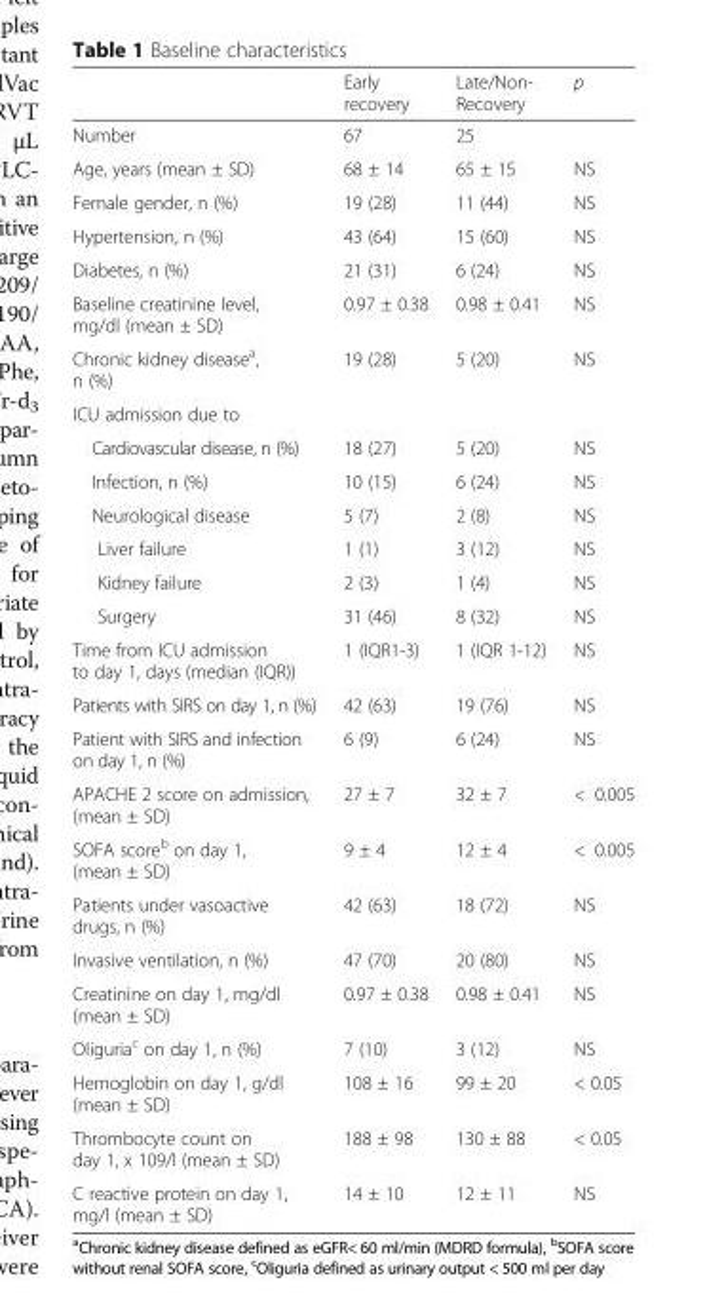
<table><thead><tr><td></td><td>Early recovery</td><td>Late/Non- Recovery</td><td>p</td></tr></thead><tbody><tr><td>Number</td><td>67</td><td>25</td><td></td></tr><tr><td>Age, years (mean ± SD)</td><td>68 ± 14</td><td>65 ± 15</td><td>NS</td></tr><tr><td>Female gender, n (%)</td><td>19 (28)</td><td>11 (44)</td><td>NS</td></tr><tr><td>Hypertension, n (%)</td><td>43 (64)</td><td>15 (60)</td><td>NS</td></tr><tr><td>Diabetes, n (%)</td><td>21 (31)</td><td>6 (24)</td><td>NS</td></tr><tr><td>Baseline creatinine level, mg/dl (mean ± SD)</td><td>0.97 ± 0.38</td><td>0.98 ± 0.41</td><td>NS</td></tr><tr><td>Chronic kidney disease<sup>a</sup>, n (%)</td><td>19 (28)</td><td>5 (20)</td><td>NS</td></tr><tr><td colspan="4">ICU admission due to</td></tr><tr><td>Cardiovascular disease, n (%)</td><td>18 (27)</td><td>5 (20)</td><td>NS</td></tr><tr><td>Infection, n (%)</td><td>10 (15)</td><td>6 (24)</td><td>NS</td></tr><tr><td>Neurological disease</td><td>5 (7)</td><td>2 (8)</td><td>NS</td></tr><tr><td>Liver failure</td><td>1 (1)</td><td>3 (12)</td><td>NS</td></tr><tr><td>Kidney failure</td><td>2 (3)</td><td>1 (4)</td><td>NS</td></tr><tr><td>Surgery</td><td>31 (46)</td><td>8 (32)</td><td>NS</td></tr><tr><td>Time from ICU admission to day 1, days (median (IQR))</td><td>1 (IQR1-3)</td><td>1 (IQR 1-12)</td><td>NS</td></tr><tr><td>Patients with SIRS on day 1, n (%)</td><td>42 (63)</td><td>19 (76)</td><td>NS</td></tr><tr><td>Patient with SIRS and infection on day 1, n (%)</td><td>6 (9)</td><td>6 (24)</td><td>NS</td></tr><tr><td>APACHE 2 score on admission, (mean ± SD)</td><td>27 ± 7</td><td>32 ± 7</td><td>&lt; 0.005</td></tr><tr><td>SOFA score<sup>b</sup> on day 1, (mean ± SD)</td><td>9 ± 4</td><td>12 ± 4</td><td>&lt; 0.005</td></tr><tr><td>Patients under vasoactive drugs, n (%)</td><td>42 (63)</td><td>18 (72)</td><td>NS</td></tr><tr><td>Invasive ventilation, n (%)</td><td>47 (70)</td><td>20 (80)</td><td>NS</td></tr><tr><td>Creatinine on day 1, mg/dl (mean ± SD)</td><td>0.97 ± 0.38</td><td>0.98 ± 0.41</td><td>NS</td></tr><tr><td>Oliguria<sup>c</sup> on day 1, n (%)</td><td>7 (10)</td><td>3 (12)</td><td>NS</td></tr><tr><td>Hemoglobin on day 1, g/dl (mean ± SD)</td><td>108 ± 16</td><td>99 ± 20</td><td>&lt; 0.05</td></tr><tr><td>Thrombocyte count on day 1, x 109/l (mean ± SD)</td><td>188 ± 98</td><td>130 ± 88</td><td>&lt; 0.05</td></tr><tr><td>C reactive protein on day 1, mg/l (mean ± SD)</td><td>14 ± 10</td><td>12 ± 11</td><td>NS</td></tr></tbody></table>